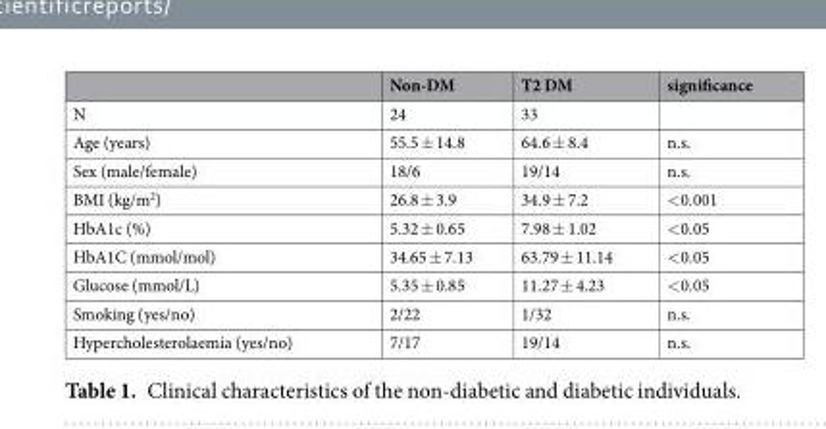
<table><thead><tr><td></td><td>Non-DM</td><td>T2 DM</td><td>significance</td></tr></thead><tbody><tr><td>N</td><td>24</td><td>33</td><td></td></tr><tr><td>Age (years)</td><td>55.5 ± 14.8</td><td>64.6 ± 8.4</td><td>n.s.</td></tr><tr><td>Sex (male/female)</td><td>18/6</td><td>19/14</td><td>n.s.</td></tr><tr><td>BMI (kg/m<sup>2</sup>)</td><td>26.8 ± 3.9</td><td>34.9 ± 7.2</td><td>&lt;0.001</td></tr><tr><td>HbA1c (%)</td><td>5.32 ± 0.65</td><td>7.98 ± 1.02</td><td>&lt;0.05</td></tr><tr><td>HbA1C (mmol/mol)</td><td>34.65 ± 7.13</td><td>63.79 ± 11.14</td><td>&lt;0.05</td></tr><tr><td>Glucose (mmol/L)</td><td>5.35 ± 0.85</td><td>11.27 ± 4.23</td><td>&lt;0.05</td></tr><tr><td>Smoking (yes/no)</td><td>2/22</td><td>1/32</td><td>n.s.</td></tr><tr><td>Hypercholesterolaemia (yes/no)</td><td>7/17</td><td>19/14</td><td>n.s.</td></tr></tbody></table>